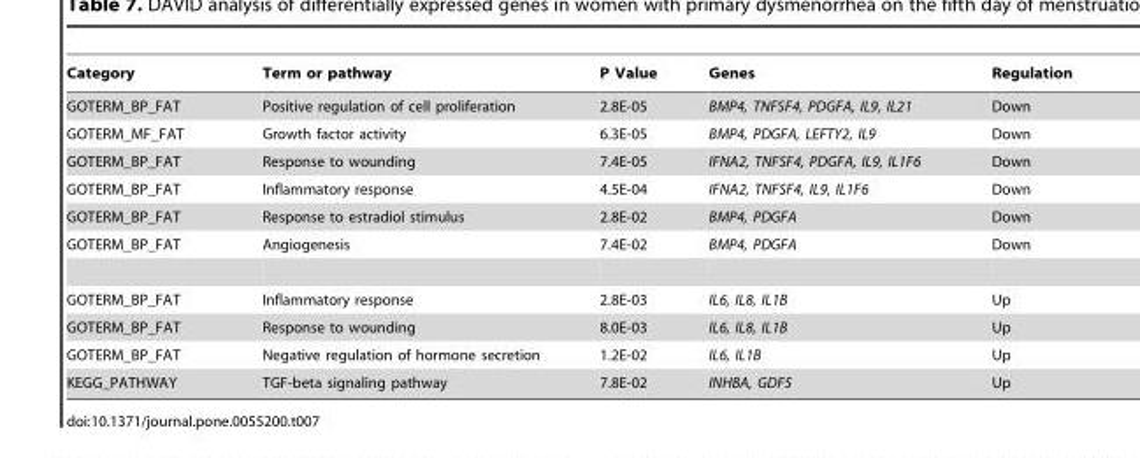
<table><thead><tr><td>Category</td><td>Term or pathway</td><td>P Value</td><td>Genes</td><td>Regulation</td></tr></thead><tbody><tr><td>GOTERM_BP_FAT</td><td>Positive regulation of cell proliferation</td><td>2.8E-05</td><td>BMP4, TNFSF4, PDGFA, IL9, IL21</td><td>Down</td></tr><tr><td>GOTERM_MF_FAT</td><td>Growth factor activity</td><td>6.3E-05</td><td>BMP4, PDGFA, LEFTY2, IL9</td><td>Down</td></tr><tr><td>GOTERM_BP_FAT</td><td>Response to wounding</td><td>7.4E-05</td><td>IFNA2, TNFSF4, PDGFA, IL9, IL1F6</td><td>Down</td></tr><tr><td>GOTERM_BP_FAT</td><td>Inflammatory response</td><td>4.5E-04</td><td>IFNA2, TNFSF4, IL9, IL1F6</td><td>Down</td></tr><tr><td>GOTERM_BP_FAT</td><td>Response to estradiol stimulus</td><td>2.8E-02</td><td>BMP4, PDGFA</td><td>Down</td></tr><tr><td>GOTERM_BP_FAT</td><td>Angiogenesis</td><td>7.4E-02</td><td>BMP4, PDGFA</td><td>Down</td></tr><tr><td>GOTERM_BP_FAT</td><td>Inflammatory response</td><td>2.8E-03</td><td>IL6, IL8, IL1B</td><td>Up</td></tr><tr><td>GOTERM_BP_FAT</td><td>Response to wounding</td><td>8.0E-03</td><td>IL6, IL8, IL1B</td><td>Up</td></tr><tr><td>GOTERM_BP_FAT</td><td>Negative regulation of hormone secretion</td><td>1.2E-02</td><td>IL6, IL1B</td><td>Up</td></tr><tr><td>KEGG_PATHWAY</td><td>TGF-beta signaling pathway</td><td>7.8E-02</td><td>INHBA, GDF5</td><td>Up</td></tr></tbody></table>